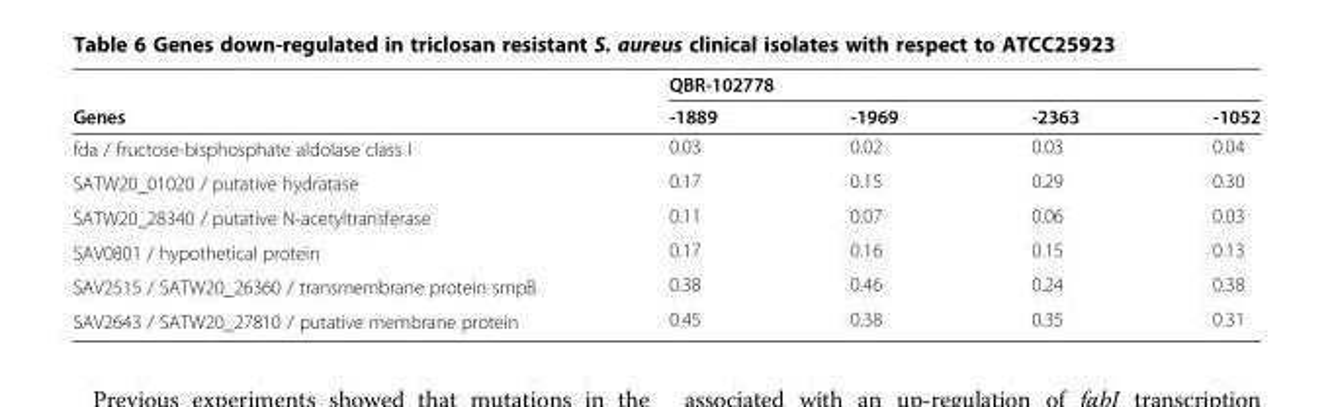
<table><thead><tr><td rowspan="2">Genes</td><td colspan="4">QBR-102778</td></tr><tr><td>-1889</td><td>-1969</td><td>-2363</td><td>-1052</td></tr></thead><tbody><tr><td>fda / fructose-bisphosphate aldolase class I</td><td>0.03</td><td>0.02</td><td>0.03</td><td>0.04</td></tr><tr><td>SATW20_01020 / putative hydratase</td><td>0.17</td><td>0.15</td><td>0.29</td><td>0.30</td></tr><tr><td>SATW20_28340 / putative N-acetyltransferase</td><td>0.11</td><td>0.07</td><td>0.06</td><td>0.03</td></tr><tr><td>SAV0801 / hypothetical protein</td><td>0.17</td><td>0.16</td><td>0.15</td><td>0.13</td></tr><tr><td>SAV2515 / SATW20_26360 / transmembrane protein smpB</td><td>0.38</td><td>0.46</td><td>0.24</td><td>0.38</td></tr><tr><td>SAV2643 / SATW20_27810 / putative membrane protein</td><td>0.45</td><td>0.38</td><td>0.35</td><td>0.31</td></tr></tbody></table>